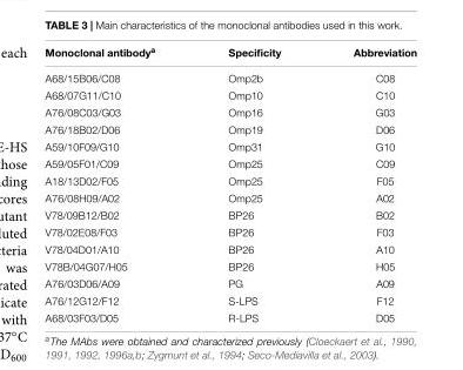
<table><thead><tr><td>Monoclonal antibody<sup>a</sup></td><td>Specificity</td><td>Abbreviation</td></tr></thead><tbody><tr><td>A68/15B06/C08</td><td>Omp2b</td><td>C08</td></tr><tr><td>A68/07G11/C10</td><td>Omp10</td><td>C10</td></tr><tr><td>A76/08C03/G03</td><td>Omp16</td><td>G03</td></tr><tr><td>A76/18B02/D06</td><td>Omp19</td><td>D06</td></tr><tr><td>A59/10F09/G10</td><td>Omp31</td><td>G10</td></tr><tr><td>A59/05F01/C09</td><td>Omp25</td><td>C09</td></tr><tr><td>A18/13D02/F05</td><td>Omp25</td><td>F05</td></tr><tr><td>A76/08H09/A02</td><td>Omp25</td><td>A02</td></tr><tr><td>V78/09B12/B02</td><td>BP26</td><td>B02</td></tr><tr><td>V78/02E08/F03</td><td>BP26</td><td>F03</td></tr><tr><td>V78/04D01/A10</td><td>BP26</td><td>A10</td></tr><tr><td>V78B/04G07/H05</td><td>BP26</td><td>H05</td></tr><tr><td>A76/03D06/A09</td><td>PG</td><td>A09</td></tr><tr><td>A76/12G12/F12</td><td>S-LPS</td><td>F12</td></tr><tr><td>A68/03F03/D05</td><td>R-LPS</td><td>D05</td></tr></tbody></table>